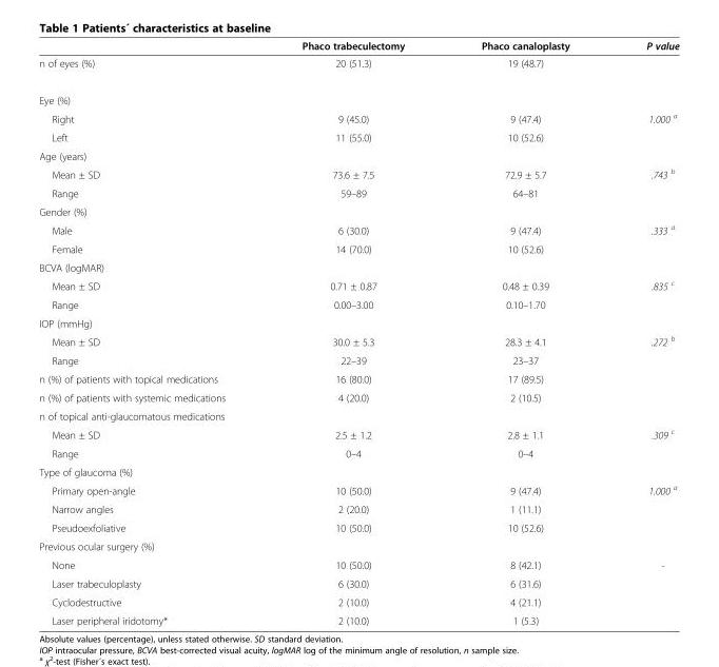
<table><thead><tr><td></td><td>Phaco trabeculectomy</td><td>Phaco canaloplasty</td><td>P value</td></tr></thead><tbody><tr><td>n of eyes (%)</td><td>20 (51.3)</td><td>19 (48.7)</td><td></td></tr><tr><td colspan="4">Eye (%)</td></tr><tr><td>Right</td><td>9 (45.0)</td><td>9 (47.4)</td><td rowspan="2">1.000 <sup>a</sup></td></tr><tr><td>Left</td><td>11 (55.0)</td><td>10 (52.6)</td></tr><tr><td colspan="4">Age (years)</td></tr><tr><td>Mean ± SD</td><td>73.6 ± 7.5</td><td>72.9 ± 5.7</td><td rowspan="2">.743 <sup>b</sup></td></tr><tr><td>Range</td><td>59–89</td><td>64–81</td></tr><tr><td colspan="4">Gender (%)</td></tr><tr><td>Male</td><td>6 (30.0)</td><td>9 (47.4)</td><td rowspan="2">.333 <sup>a</sup></td></tr><tr><td>Female</td><td>14 (70.0)</td><td>10 (52.6)</td></tr><tr><td colspan="4">BCVA (logMAR)</td></tr><tr><td>Mean ± SD</td><td>0.71 ± 0.87</td><td>0.48 ± 0.39</td><td rowspan="2">.835 <sup>c</sup></td></tr><tr><td>Range</td><td>0.00–3.00</td><td>0.10–1.70</td></tr><tr><td colspan="4">IOP (mmHg)</td></tr><tr><td>Mean ± SD</td><td>30.0 ± 5.3</td><td>28.3 ± 4.1</td><td rowspan="2">.272 <sup>b</sup></td></tr><tr><td>Range</td><td>22–39</td><td>23–37</td></tr><tr><td>n (%) of patients with topical medications</td><td>16 (80.0)</td><td>17 (89.5)</td><td></td></tr><tr><td>n (%) of patients with systemic medications</td><td>4 (20.0)</td><td>2 (10.5)</td><td></td></tr><tr><td colspan="4">n of topical anti-glaucomatous medications</td></tr><tr><td>Mean ± SD</td><td>2.5 ± 1.2</td><td>2.8 ± 1.1</td><td rowspan="2">.309 <sup>c</sup></td></tr><tr><td>Range</td><td>0–4</td><td>0–4</td></tr><tr><td colspan="4">Type of glaucoma (%)</td></tr><tr><td>Primary open-angle</td><td>10 (50.0)</td><td>9 (47.4)</td><td rowspan="3">1.000 <sup>a</sup></td></tr><tr><td>Narrow angles</td><td>2 (20.0)</td><td>1 (11.1)</td></tr><tr><td>Pseudoexfoliative</td><td>10 (50.0)</td><td>10 (52.6)</td></tr><tr><td colspan="4">Previous ocular surgery (%)</td></tr><tr><td>None</td><td>10 (50.0)</td><td>8 (42.1)</td><td rowspan="3">-</td></tr><tr><td>Laser trabeculoplasty</td><td>6 (30.0)</td><td>6 (31.6)</td></tr><tr><td>Cyclodestructive</td><td>2 (10.0)</td><td>4 (21.1)</td></tr><tr><td>Laser peripheral iridotomy*</td><td>2 (10.0)</td><td>1 (5.3)</td><td></td></tr></tbody></table>